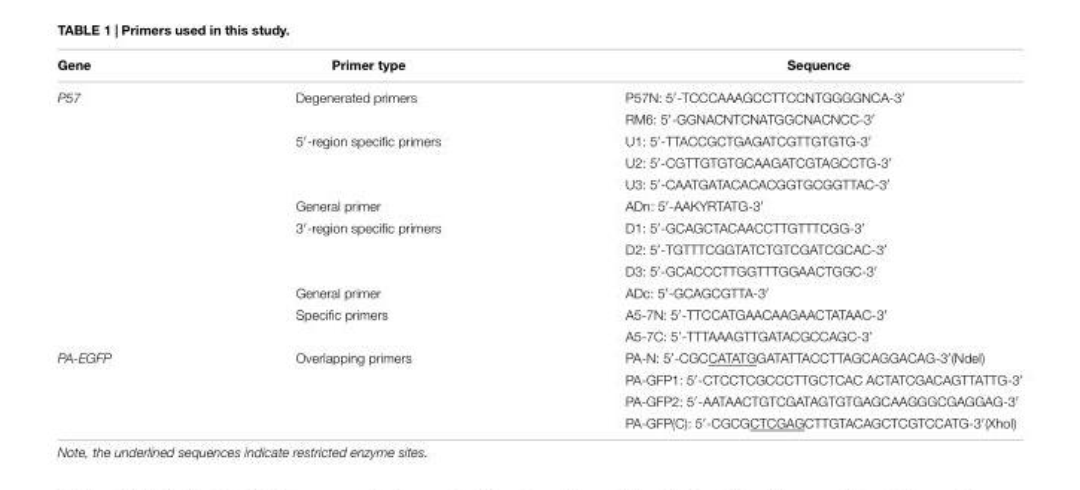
<table><thead><tr><td>Gene</td><td>Primer type</td><td>Sequence</td></tr></thead><tbody><tr><td rowspan="12">P57</td><td>Degenerated primers</td><td>P57N: 5′-TCCCAAAGCCTTCCNTGGGGNCA-3′</td></tr><tr><td></td><td>RM6: 5′-GGNACNTCNATGGCNACNCC-3′</td></tr><tr><td>5′-region specific primers</td><td>U1: 5′-TTACCGCTGAGATCGTTGTGTG-3′</td></tr><tr><td></td><td>U2: 5′-CGTTGTGTGCAAGATCGTAGCCTG-3′</td></tr><tr><td></td><td>U3: 5′-CAATGATACACACGGTGCGGTTAC-3′</td></tr><tr><td>General primer</td><td>ADn: 5′-AAKYRTATG-3′</td></tr><tr><td>3′-region specific primers</td><td>D1: 5′-GCAGCTACAACCTTGTTTCGG-3′</td></tr><tr><td></td><td>D2: 5′-TGTTTCGGTATCTGTCGATCGCAC-3′</td></tr><tr><td></td><td>D3: 5′-GCACCCTTGGTTTGGAACTGGC-3′</td></tr><tr><td>General primer</td><td>ADc: 5′-GCAGCGTTA-3′</td></tr><tr><td>Specific primers</td><td>A5-7N: 5′-TTCCATGAACAAGAACTATAAC-3′</td></tr><tr><td></td><td>A5-7C: 5’-TTTAAAGTTGATACGCCAGC-3’</td></tr><tr><td rowspan="4">PA-EGFP</td><td>Overlapping primers</td><td>PA-N: 5′-CGCCATATGGATATTACCTTAGCAGGACAG-3′(NdeI)</td></tr><tr><td></td><td>PA-GFP1: 5′-CTCCTCGCCCTTGCTCAC ACTATCGACAGTTATTG-3′</td></tr><tr><td></td><td>PA-GFP2: 5′-AATAACTGTCGATAGTGTGAGCAAGGGCGAGGAG-3′</td></tr><tr><td></td><td>PA-GFP(C): 5′-CGCGCTCGAGCTTGTACAGCTCGTCCATG-3′(XhoI)</td></tr></tbody></table>